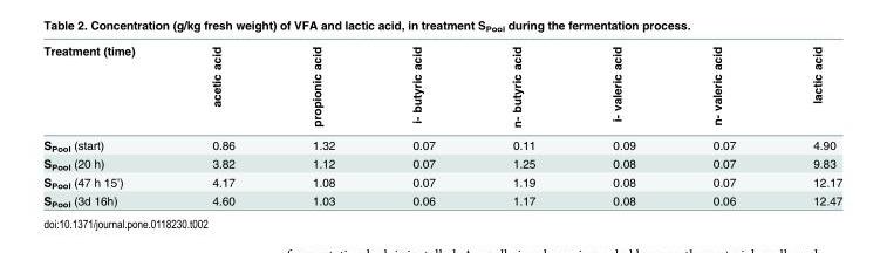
<table><thead><tr><td>Treatment (time)</td><td>acetic acid</td><td>propionic acid</td><td>i- butyric acid</td><td>n- butyric acid</td><td>i- valeric acid</td><td>n- valeric acid</td><td>lactic acid</td></tr></thead><tbody><tr><td>S<sub>Pool</sub> (start)</td><td>0.86</td><td>1.32</td><td>0.07</td><td>0.11</td><td>0.09</td><td>0.07</td><td>4.90</td></tr><tr><td>S<sub>Pool</sub> (20 h)</td><td>3.82</td><td>1.12</td><td>0.07</td><td>1.25</td><td>0.08</td><td>0.07</td><td>9.83</td></tr><tr><td>S<sub>Pool</sub> (47 h 15’)</td><td>4.17</td><td>1.08</td><td>0.07</td><td>1.19</td><td>0.08</td><td>0.07</td><td>12.17</td></tr><tr><td>S<sub>Pool</sub> (3d 16h)</td><td>4.60</td><td>1.03</td><td>0.06</td><td>1.17</td><td>0.08</td><td>0.06</td><td>12.47</td></tr></tbody></table>